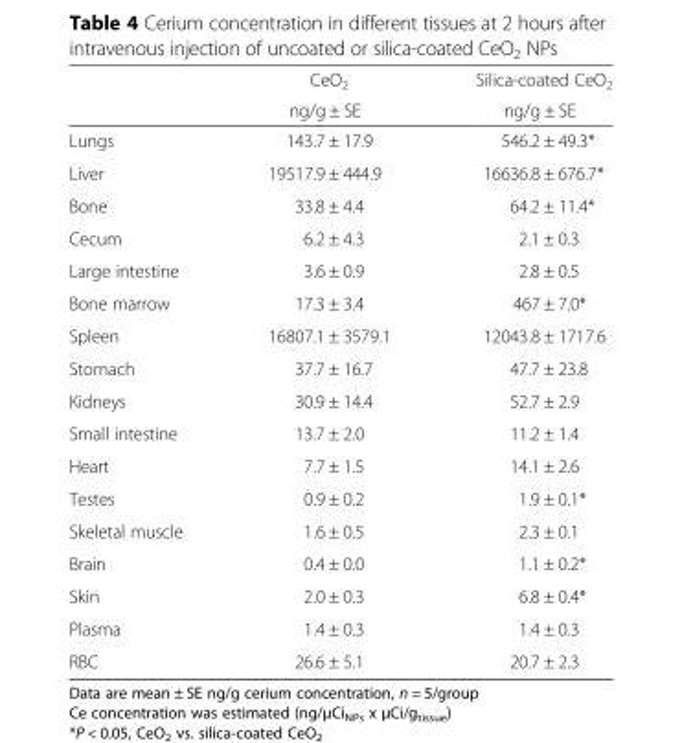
<table><thead><tr><td rowspan="2"></td><td rowspan="2">CeO<sub>2</sub> ng/g ± SE</td><td rowspan="2">Silica-coated CeO<sub>2</sub> ng/g ± SE</td></tr><tr></tr></thead><tbody><tr><td>Lungs</td><td>143.7 ± 17.9</td><td>546.2 ± 49.3*</td></tr><tr><td>Liver</td><td>19517.9 ± 444.9</td><td>16636.8 ± 676.7*</td></tr><tr><td>Bone</td><td>33.8 ± 4.4</td><td>64.2 ± 11.4*</td></tr><tr><td>Cecum</td><td>6.2 ± 4.3</td><td>2.1 ± 0.3</td></tr><tr><td>Large intestine</td><td>3.6 ± 0.9</td><td>2.8 ± 0.5</td></tr><tr><td>Bone marrow</td><td>17.3 ± 3.4</td><td>467 ± 7.0*</td></tr><tr><td>Spleen</td><td>16807.1 ± 3579.1</td><td>12043.8 ± 1717.6</td></tr><tr><td>Stomach</td><td>37.7 ± 16.7</td><td>47.7 ± 23.8</td></tr><tr><td>Kidneys</td><td>30.9 ± 14.4</td><td>52.7 ± 2.9</td></tr><tr><td>Small intestine</td><td>13.7 ± 2.0</td><td>11.2 ± 1.4</td></tr><tr><td>Heart</td><td>7.7 ± 1.5</td><td>14.1 ± 2.6</td></tr><tr><td>Testes</td><td>0.9 ± 0.2</td><td>1.9 ± 0.1*</td></tr><tr><td>Skeletal muscle</td><td>1.6 ± 0.5</td><td>2.3 ± 0.1</td></tr><tr><td>Brain</td><td>0.4 ± 0.0</td><td>1.1 ± 0.2*</td></tr><tr><td>Skin</td><td>2.0 ± 0.3</td><td>6.8 ± 0.4*</td></tr><tr><td>Plasma</td><td>1.4 ± 0.3</td><td>1.4 ± 0.3</td></tr><tr><td>RBC</td><td>26.6 ± 5.1</td><td>20.7 ± 2.3</td></tr></tbody></table>